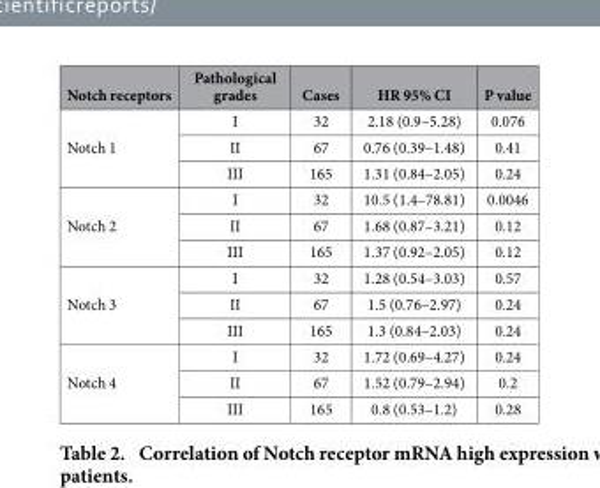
<table><thead><tr><td>Notch receptors</td><td>Pathological grades</td><td>Cases</td><td>HR 95% CI</td><td>P value</td></tr></thead><tbody><tr><td rowspan="3">Notch 1</td><td>I</td><td>32</td><td>2.18 (0.9–5.28)</td><td>0.076</td></tr><tr><td>II</td><td>67</td><td>0.76 (0.39–1.48)</td><td>0.41</td></tr><tr><td>III</td><td>165</td><td>1.31 (0.84–2.05)</td><td>0.24</td></tr><tr><td rowspan="3">Notch 2</td><td>I</td><td>32</td><td>10.5 (1.4–78.81)</td><td>0.0046</td></tr><tr><td>II</td><td>67</td><td>1.68 (0.87–3.21)</td><td>0.12</td></tr><tr><td>III</td><td>165</td><td>1.37 (0.92–2.05)</td><td>0.12</td></tr><tr><td rowspan="3">Notch 3</td><td>I</td><td>32</td><td>1.28 (0.54–3.03)</td><td>0.57</td></tr><tr><td>II</td><td>67</td><td>1.5 (0.76–2.97)</td><td>0.24</td></tr><tr><td>III</td><td>165</td><td>1.3 (0.84–2.03)</td><td>0.24</td></tr><tr><td rowspan="3">Notch 4</td><td>I</td><td>32</td><td>1.72 (0.69–4.27)</td><td>0.24</td></tr><tr><td>II</td><td>67</td><td>1.52 (0.79–2.94)</td><td>0.2</td></tr><tr><td>III</td><td>165</td><td>0.8 (0.53–1.2)</td><td>0.28</td></tr></tbody></table>